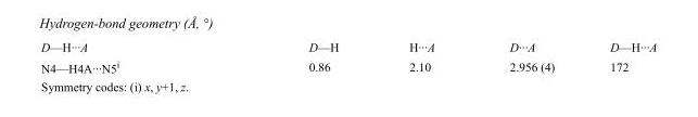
<table><tbody><tr><td>D—H···A</td><td>D—H</td><td>H···A</td><td>D···A</td><td>D—H···A</td></tr><tr><td>N4—H4A···N5<sup>i</sup></td><td>0.86</td><td>2.10</td><td>2.956 (4)</td><td>172</td></tr></tbody></table>